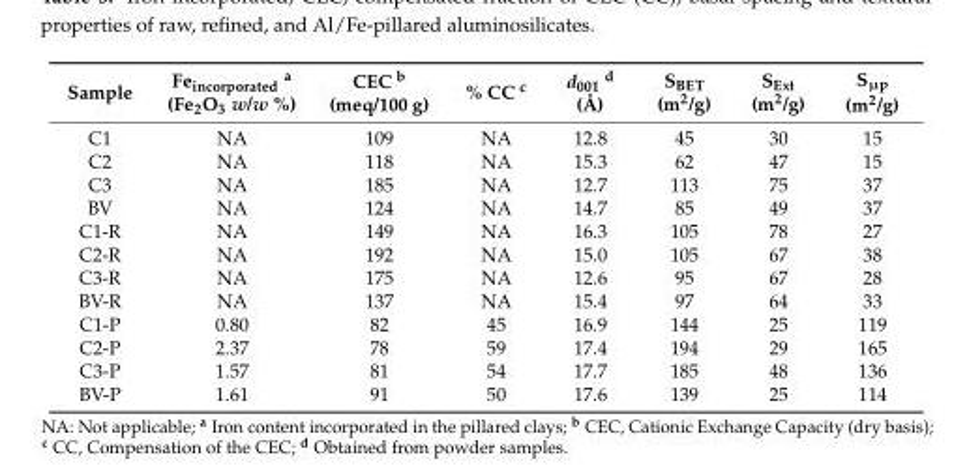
<table><thead><tr><td>Sample</td><td>Fe<sub>incorporated</sub> <sup>a</sup> (Fe<sub>2</sub>O<sub>3</sub> w/w %)</td><td>CEC <sup>b</sup> (meq/100 g)</td><td>% CC <sup>c</sup></td><td>d<sub>001</sub> <sup>d</sup> (Å)</td><td>S<sub>BET</sub> (m<sup>2</sup>/g)</td><td>S<sub>Ext</sub> (m<sup>2</sup>/g)</td><td>S<sub>µp</sub> (m<sup>2</sup>/g)</td></tr></thead><tbody><tr><td>C1</td><td>NA</td><td>109</td><td>NA</td><td>12.8</td><td>45</td><td>30</td><td>15</td></tr><tr><td>C2</td><td>NA</td><td>118</td><td>NA</td><td>15.3</td><td>62</td><td>47</td><td>15</td></tr><tr><td>C3</td><td>NA</td><td>185</td><td>NA</td><td>12.7</td><td>113</td><td>75</td><td>37</td></tr><tr><td>BV</td><td>NA</td><td>124</td><td>NA</td><td>14.7</td><td>85</td><td>49</td><td>37</td></tr><tr><td>C1-R</td><td>NA</td><td>149</td><td>NA</td><td>16.3</td><td>105</td><td>78</td><td>27</td></tr><tr><td>C2-R</td><td>NA</td><td>192</td><td>NA</td><td>15.0</td><td>105</td><td>67</td><td>38</td></tr><tr><td>C3-R</td><td>NA</td><td>175</td><td>NA</td><td>12.6</td><td>95</td><td>67</td><td>28</td></tr><tr><td>BV-R</td><td>NA</td><td>137</td><td>NA</td><td>15.4</td><td>97</td><td>64</td><td>33</td></tr><tr><td>C1-P</td><td>0.80</td><td>82</td><td>45</td><td>16.9</td><td>144</td><td>25</td><td>119</td></tr><tr><td>C2-P</td><td>2.37</td><td>78</td><td>59</td><td>17.4</td><td>194</td><td>29</td><td>165</td></tr><tr><td>C3-P</td><td>1.57</td><td>81</td><td>54</td><td>17.7</td><td>185</td><td>48</td><td>136</td></tr><tr><td>BV-P</td><td>1.61</td><td>91</td><td>50</td><td>17.6</td><td>139</td><td>25</td><td>114</td></tr></tbody></table>